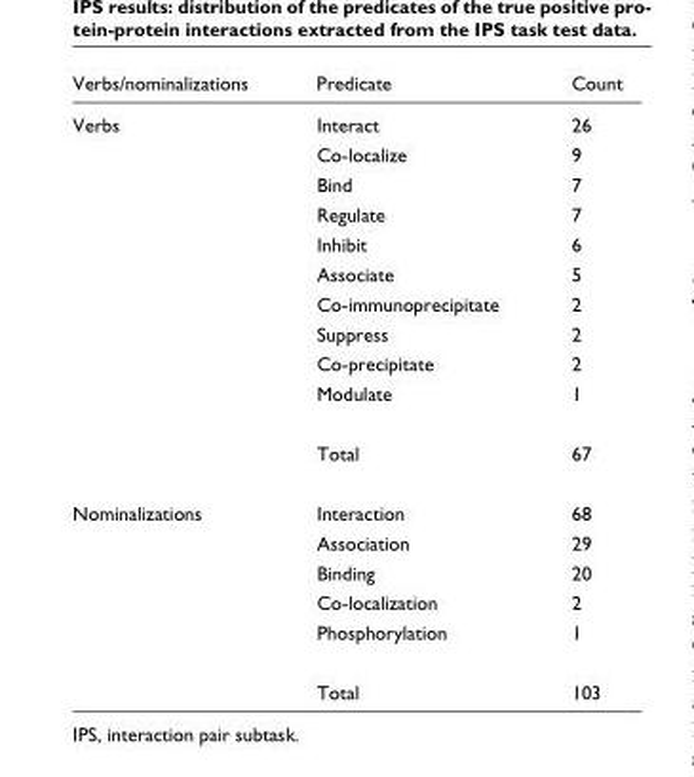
<table><thead><tr><td>Verbs/nominalizations</td><td>Predicate</td><td>Count</td></tr></thead><tbody><tr><td rowspan="11">Verbs</td><td>Interact</td><td>26</td></tr><tr><td>Co-localize</td><td>9</td></tr><tr><td>Bind</td><td>7</td></tr><tr><td>Regulate</td><td>7</td></tr><tr><td>Inhibit</td><td>6</td></tr><tr><td>Associate</td><td>5</td></tr><tr><td>Co-immunoprecipitate</td><td>2</td></tr><tr><td>Suppress</td><td>2</td></tr><tr><td>Co-precipitate</td><td>2</td></tr><tr><td>Modulate</td><td>1</td></tr><tr><td>Total</td><td>67</td></tr><tr><td rowspan="6">Nominalizations</td><td>Interaction</td><td>68</td></tr><tr><td>Association</td><td>29</td></tr><tr><td>Binding</td><td>20</td></tr><tr><td>Co-localization</td><td>2</td></tr><tr><td>Phosphorylation</td><td>1</td></tr><tr><td>Total</td><td>103</td></tr></tbody></table>